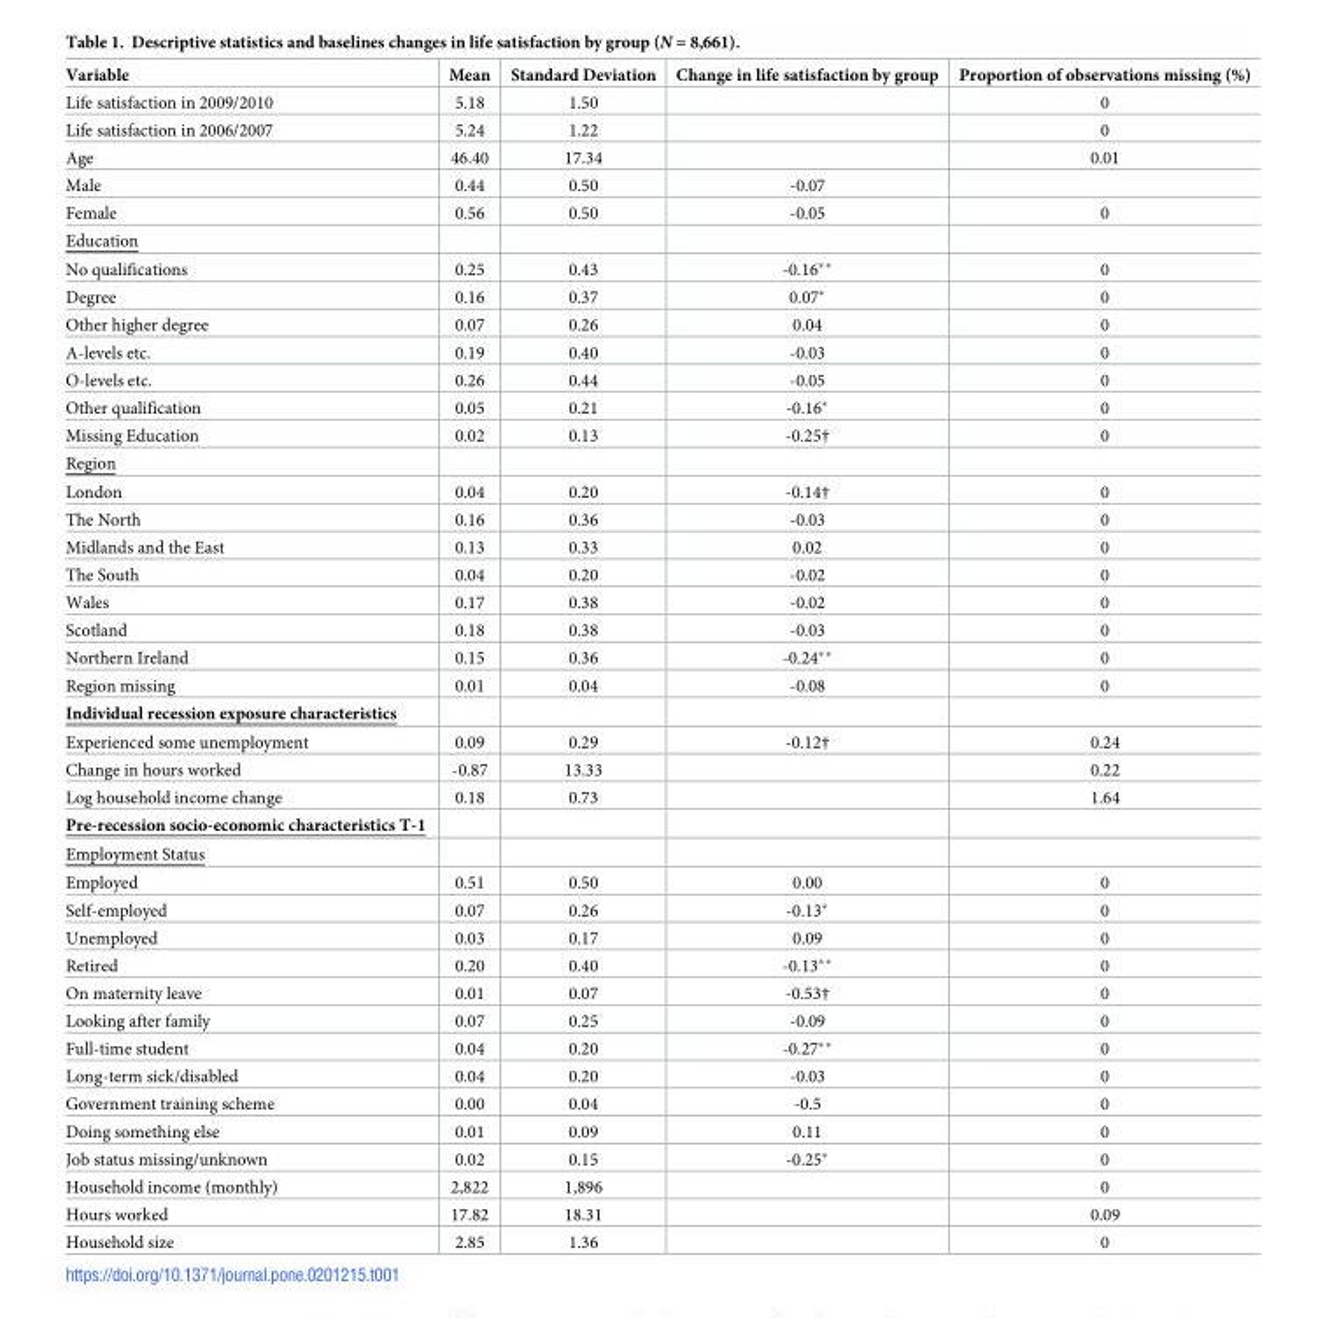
<table><thead><tr><td>Variable</td><td>Mean</td><td>Standard Deviation</td><td>Change in life satisfaction by group</td><td>Proportion of observations missing (%)</td></tr></thead><tbody><tr><td>Life satisfaction in 2009/2010</td><td>5.18</td><td>1.50</td><td></td><td>0</td></tr><tr><td>Life satisfaction in 2006/2007</td><td>5.24</td><td>1.22</td><td></td><td>0</td></tr><tr><td>Age</td><td>46.40</td><td>17.34</td><td></td><td>0.01</td></tr><tr><td>Male</td><td>0.44</td><td>0.50</td><td>-0.07</td><td></td></tr><tr><td>Female</td><td>0.56</td><td>0.50</td><td>-0.05</td><td>0</td></tr><tr><td colspan="5">Education</td></tr><tr><td>No qualifications</td><td>0.25</td><td>0.43</td><td>-0.16**</td><td>0</td></tr><tr><td>Degree</td><td>0.16</td><td>0.37</td><td>0.07*</td><td>0</td></tr><tr><td>Other higher degree</td><td>0.07</td><td>0.26</td><td>0.04</td><td>0</td></tr><tr><td>A-levels etc.</td><td>0.19</td><td>0.40</td><td>-0.03</td><td>0</td></tr><tr><td>O-levels etc.</td><td>0.26</td><td>0.44</td><td>-0.05</td><td>0</td></tr><tr><td>Other qualification</td><td>0.05</td><td>0.21</td><td>-0.16*</td><td>0</td></tr><tr><td>Missing Education</td><td>0.02</td><td>0.13</td><td>-0.25†</td><td>0</td></tr><tr><td colspan="5">Region</td></tr><tr><td>London</td><td>0.04</td><td>0.20</td><td>-0.14†</td><td>0</td></tr><tr><td>The North</td><td>0.16</td><td>0.36</td><td>-0.03</td><td>0</td></tr><tr><td>Midlands and the East</td><td>0.13</td><td>0.33</td><td>0.02</td><td>0</td></tr><tr><td>The South</td><td>0.04</td><td>0.20</td><td>-0.02</td><td>0</td></tr><tr><td>Wales</td><td>0.17</td><td>0.38</td><td>-0.02</td><td>0</td></tr><tr><td>Scotland</td><td>0.18</td><td>0.38</td><td>-0.03</td><td>0</td></tr><tr><td>Northern Ireland</td><td>0.15</td><td>0.36</td><td>-0.24**</td><td>0</td></tr><tr><td>Region missing</td><td>0.01</td><td>0.04</td><td>-0.08</td><td>0</td></tr><tr><td colspan="5">Individual recession exposure characteristics</td></tr><tr><td>Experienced some unemployment</td><td>0.09</td><td>0.29</td><td>-0.12†</td><td>0.24</td></tr><tr><td>Change in hours worked</td><td>-0.87</td><td>13.33</td><td></td><td>0.22</td></tr><tr><td>Log household income change</td><td>0.18</td><td>0.73</td><td></td><td>1.64</td></tr><tr><td colspan="5">Pre-recession socio-economic characteristics T-1</td></tr><tr><td colspan="5">Employment Status</td></tr><tr><td>Employed</td><td>0.51</td><td>0.50</td><td>0.00</td><td>0</td></tr><tr><td>Self-employed</td><td>0.07</td><td>0.26</td><td>-0.13*</td><td>0</td></tr><tr><td>Unemployed</td><td>0.03</td><td>0.17</td><td>0.09</td><td>0</td></tr><tr><td>Retired</td><td>0.20</td><td>0.40</td><td>-0.13**</td><td>0</td></tr><tr><td>On maternity leave</td><td>0.01</td><td>0.07</td><td>-0.53†</td><td>0</td></tr><tr><td>Looking after family</td><td>0.07</td><td>0.25</td><td>-0.09</td><td>0</td></tr><tr><td>Full-time student</td><td>0.04</td><td>0.20</td><td>-0.27**</td><td>0</td></tr><tr><td>Long-term sick/disabled</td><td>0.04</td><td>0.20</td><td>-0.03</td><td>0</td></tr><tr><td>Government training scheme</td><td>0.00</td><td>0.04</td><td>-0.5</td><td>0</td></tr><tr><td>Doing something else</td><td>0.01</td><td>0.09</td><td>0.11</td><td>0</td></tr><tr><td>Job status missing/unknown</td><td>0.02</td><td>0.15</td><td>-0.25*</td><td>0</td></tr><tr><td>Household income (monthly)</td><td>2,822</td><td>1,896</td><td></td><td>0</td></tr><tr><td>Hours worked</td><td>17.82</td><td>18.31</td><td></td><td>0.09</td></tr><tr><td>Household size</td><td>2.85</td><td>1.36</td><td></td><td>0</td></tr></tbody></table>